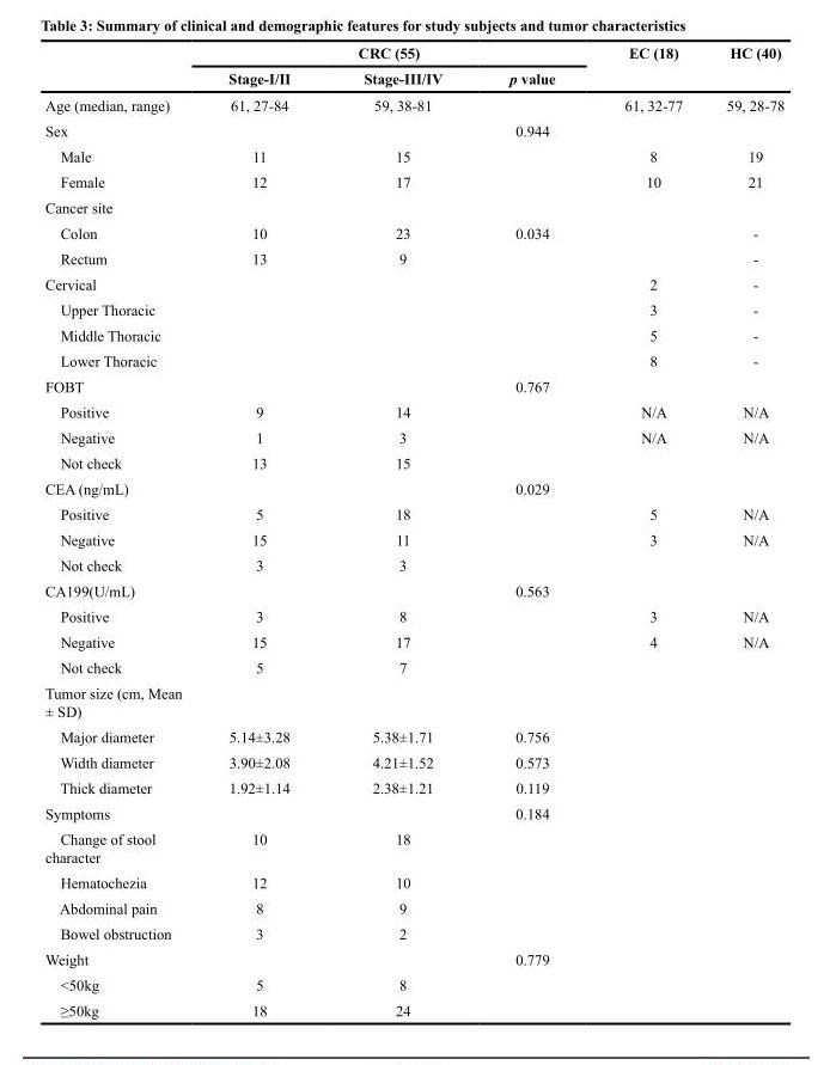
<table><thead><tr><td rowspan="2"></td><td colspan="3">CRC (55)</td><td rowspan="2">EC (18)</td><td rowspan="2">HC (40)</td></tr><tr><td>Stage-I/II</td><td>Stage-III/IV</td><td>p value</td></tr></thead><tbody><tr><td>Age (median, range)</td><td>61, 27-84</td><td>59, 38-81</td><td></td><td>61, 32-77</td><td>59, 28-78</td></tr><tr><td>Sex</td><td></td><td></td><td>0.944</td><td></td><td></td></tr><tr><td>Male</td><td>11</td><td>15</td><td></td><td>8</td><td>19</td></tr><tr><td>Female</td><td>12</td><td>17</td><td></td><td>10</td><td>21</td></tr><tr><td colspan="6">Cancer site</td></tr><tr><td>Colon</td><td>10</td><td>23</td><td>0.034</td><td></td><td>-</td></tr><tr><td>Rectum</td><td>13</td><td>9</td><td></td><td></td><td>-</td></tr><tr><td>Cervical</td><td></td><td></td><td></td><td>2</td><td>-</td></tr><tr><td>Upper Thoracic</td><td></td><td></td><td></td><td>3</td><td>-</td></tr><tr><td>Middle Thoracic</td><td></td><td></td><td></td><td>5</td><td>-</td></tr><tr><td>Lower Thoracic</td><td></td><td></td><td></td><td>8</td><td>-</td></tr><tr><td>FOBT</td><td></td><td></td><td>0.767</td><td></td><td></td></tr><tr><td>Positive</td><td>9</td><td>14</td><td></td><td>N/A</td><td>N/A</td></tr><tr><td>Negative</td><td>1</td><td>3</td><td></td><td>N/A</td><td>N/A</td></tr><tr><td>Not check</td><td>13</td><td>15</td><td></td><td></td><td></td></tr><tr><td>CEA (ng/mL)</td><td></td><td></td><td>0.029</td><td></td><td></td></tr><tr><td>Positive</td><td>5</td><td>18</td><td></td><td>5</td><td>N/A</td></tr><tr><td>Negative</td><td>15</td><td>11</td><td></td><td>3</td><td>N/A</td></tr><tr><td>Not check</td><td>3</td><td>3</td><td></td><td></td><td></td></tr><tr><td>CA199(U/mL)</td><td></td><td></td><td>0.563</td><td></td><td></td></tr><tr><td>Positive</td><td>3</td><td>8</td><td></td><td>3</td><td>N/A</td></tr><tr><td>Negative</td><td>15</td><td>17</td><td></td><td>4</td><td>N/A</td></tr><tr><td>Not check</td><td>5</td><td>7</td><td></td><td></td><td></td></tr><tr><td colspan="6">Tumor size (cm, Mean ± SD)</td></tr><tr><td>Major diameter</td><td>5.14±3.28</td><td>5.38±1.71</td><td>0.756</td><td></td><td></td></tr><tr><td>Width diameter</td><td>3.90±2.08</td><td>4.21±1.52</td><td>0.573</td><td></td><td></td></tr><tr><td>Thick diameter</td><td>1.92±1.14</td><td>2.38±1.21</td><td>0.119</td><td></td><td></td></tr><tr><td>Symptoms</td><td></td><td></td><td>0.184</td><td></td><td></td></tr><tr><td>Change of stool character</td><td>10</td><td>18</td><td></td><td></td><td></td></tr><tr><td>Hematochezia</td><td>12</td><td>10</td><td></td><td></td><td></td></tr><tr><td>Abdominal pain</td><td>8</td><td>9</td><td></td><td></td><td></td></tr><tr><td>Bowel obstruction</td><td>3</td><td>2</td><td></td><td></td><td></td></tr><tr><td>Weight</td><td></td><td></td><td>0.779</td><td></td><td></td></tr><tr><td>&lt;50kg</td><td>5</td><td>8</td><td></td><td></td><td></td></tr><tr><td>≥50kg</td><td>18</td><td>24</td><td></td><td></td><td></td></tr></tbody></table>